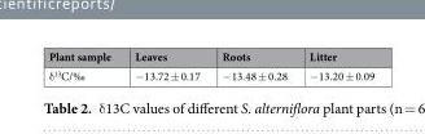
<table><thead><tr><td>Plant sample</td><td>Leaves</td><td>Roots</td><td>Litter</td></tr></thead><tbody><tr><td>δ<sup>13</sup>C/‰</td><td>−13.72 ± 0.17</td><td>−13.48 ± 0.28</td><td>−13.20 ± 0.09</td></tr></tbody></table>